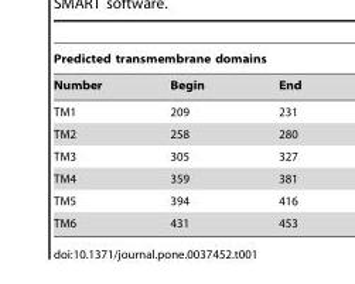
<table><thead><tr><td colspan="3">Predicted transmembrane domains</td></tr><tr><td>Number</td><td>Begin</td><td>End</td></tr></thead><tbody><tr><td>TM1</td><td>209</td><td>231</td></tr><tr><td>TM2</td><td>258</td><td>280</td></tr><tr><td>TM3</td><td>305</td><td>327</td></tr><tr><td>TM4</td><td>359</td><td>381</td></tr><tr><td>TM5</td><td>394</td><td>416</td></tr><tr><td>TM6</td><td>431</td><td>453</td></tr></tbody></table>